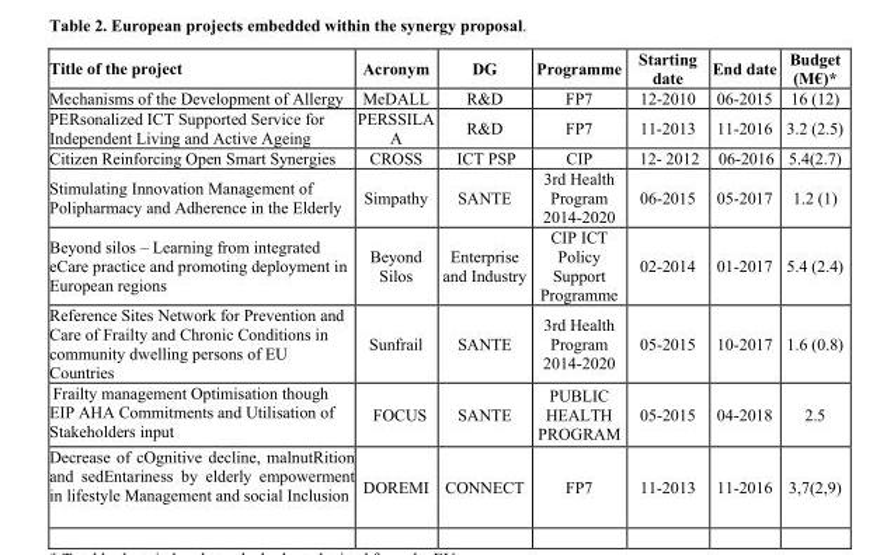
<table><thead><tr><td>Title of the project</td><td>Acronym</td><td>DG</td><td>Programme</td><td>Starting date</td><td>End date</td><td>Budget (M€)*</td></tr></thead><tbody><tr><td>Mechanisms of the Development of Allergy</td><td>MeDALL</td><td>R&amp;D</td><td>FP7</td><td>12-2010</td><td>06-2015</td><td>16 (12)</td></tr><tr><td>PERsonalized ICT Supported Service for Independent Living and Active Ageing</td><td>PERSSILA A</td><td>R&amp;D</td><td>FP7</td><td>11-2013</td><td>11-2016</td><td>3.2 (2.5)</td></tr><tr><td>Citizen Reinforcing Open Smart Synergies</td><td>CROSS</td><td>ICT PSP</td><td>CIP</td><td>12- 2012</td><td>06-2016</td><td>5.4(2.7)</td></tr><tr><td>Stimulating Innovation Management of Polipharmacy and Adherence in the Elderly</td><td>Simpathy</td><td>SANTE</td><td>3rd Health Program 2014-2020</td><td>06-2015</td><td>05-2017</td><td>1.2 (1)</td></tr><tr><td>Beyond silos – Learning from integrated eCare practice and promoting deployment in European regions</td><td>Beyond Silos</td><td>Enterprise and Industry</td><td>CIP ICT Policy Support Programme</td><td>02-2014</td><td>01-2017</td><td>5.4 (2.4)</td></tr><tr><td>Reference Sites Network for Prevention and Care of Frailty and Chronic Conditions in community dwelling persons of EU Countries</td><td>Sunfrail</td><td>SANTE</td><td>3rd Health Program 2014-2020</td><td>05-2015</td><td>10-2017</td><td>1.6 (0.8)</td></tr><tr><td>Frailty management Optimisation though EIP AHA Commitments and Utilisation of Stakeholders input</td><td>FOCUS</td><td>SANTE</td><td>PUBLIC HEALTH PROGRAM</td><td>05-2015</td><td>04-2018</td><td>2.5</td></tr><tr><td>Decrease of cOgnitive decline, malnutRition and sedEntariness by elderly empowerment in lifestyle Management and social Inclusion</td><td>DOREMI</td><td>CONNECT</td><td>FP7</td><td>11-2013</td><td>11-2016</td><td>3,7(2,9)</td></tr></tbody></table>